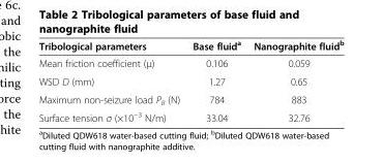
<table><thead><tr><td>Tribological parameters</td><td>Base fluid<sup>a</sup></td><td>Nanographite fluid<sup>b</sup></td></tr></thead><tbody><tr><td>Mean friction coefficient (μ)</td><td>0.106</td><td>0.059</td></tr><tr><td>WSD D (mm)</td><td>1.27</td><td>0.65</td></tr><tr><td>Maximum non-seizure load P<sub>B</sub> (N)</td><td>784</td><td>883</td></tr><tr><td>Surface tension σ (×10<sup>−3</sup> N/m)</td><td>33.04</td><td>32.76</td></tr></tbody></table>